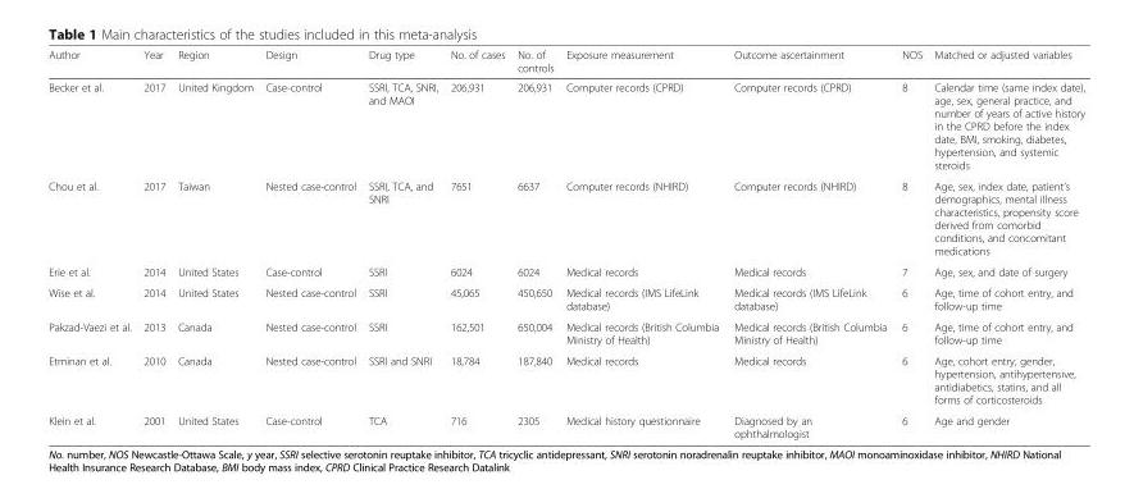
<table><thead><tr><td>Author</td><td>Year</td><td>Region</td><td>Design</td><td>Drug type</td><td>No. of cases</td><td>No. of controls</td><td>Exposure measurement</td><td>Outcome ascertainment</td><td>NOS</td><td>Matched or adjusted variables</td></tr></thead><tbody><tr><td>Becker et al.</td><td>2017</td><td>United Kingdom</td><td>Case-control</td><td>SSRI, TCA, SNRI, and MAOI</td><td>206,931</td><td>206,931</td><td>Computer records (CPRD)</td><td>Computer records (CPRD)</td><td>8</td><td>Calendar time (same index date), age, sex, general practice, and number of years of active history in the CPRD before the index date, BMI, smoking, diabetes, hypertension, and systemic steroids</td></tr><tr><td>Chou et al.</td><td>2017</td><td>Taiwan</td><td>Nested case-control</td><td>SSRI, TCA, and SNRI</td><td>7651</td><td>6637</td><td>Computer records (NHIRD)</td><td>Computer records (NHIRD)</td><td>8</td><td>Age, sex, index date, patient’s demographics, mental illness characteristics, propensity score derived from comorbid conditions, and concomitant medications</td></tr><tr><td>Erie et al.</td><td>2014</td><td>United States</td><td>Case-control</td><td>SSRI</td><td>6024</td><td>6024</td><td>Medical records</td><td>Medical records</td><td>7</td><td>Age, sex, and date of surgery</td></tr><tr><td>Wise et al.</td><td>2014</td><td>United States</td><td>Nested case-control</td><td>SSRI</td><td>45,065</td><td>450,650</td><td>Medical records (IMS LifeLink database)</td><td>Medical records (IMS LifeLink database)</td><td>6</td><td>Age, time of cohort entry, and follow-up time</td></tr><tr><td>Pakzad-Vaezi et al.</td><td>2013</td><td>Canada</td><td>Nested case-control</td><td>SSRI</td><td>162,501</td><td>650,004</td><td>Medical records (British Columbia Ministry of Health)</td><td>Medical records (British Columbia Ministry of Health)</td><td>6</td><td>Age, time of cohort entry, and follow-up time</td></tr><tr><td>Etminan et al.</td><td>2010</td><td>Canada</td><td>Nested case-control</td><td>SSRI and SNRI</td><td>18,784</td><td>187,840</td><td>Medical records</td><td>Medical records</td><td>6</td><td>Age, cohort entry, gender, hypertension, antihypertensive, antidiabetics, statins, and all forms of corticosteroids</td></tr><tr><td>Klein et al.</td><td>2001</td><td>United States</td><td>Case-control</td><td>TCA</td><td>716</td><td>2305</td><td>Medical history questionnaire</td><td>Diagnosed by an ophthalmologist</td><td>6</td><td>Age and gender</td></tr></tbody></table>